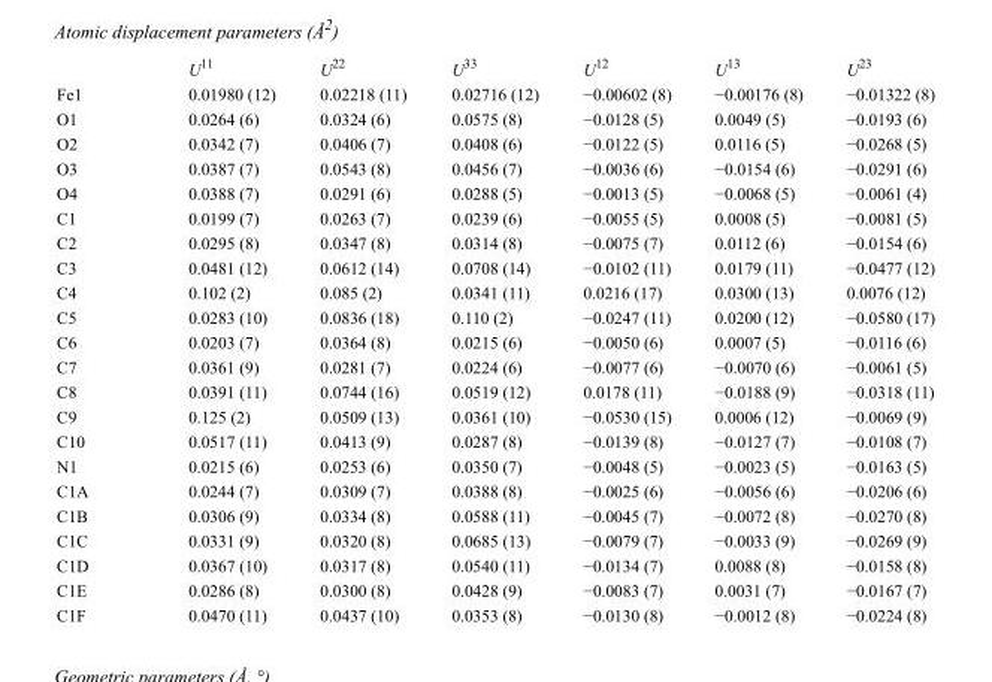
<table><thead><tr><td></td><td>U<sup>11</sup></td><td>U<sup>22</sup></td><td>U<sup>33</sup></td><td>U<sup>12</sup></td><td>U<sup>13</sup></td><td>U<sup>23</sup></td></tr></thead><tbody><tr><td>Fe1</td><td>0.01980 (12)</td><td>0.02218 (11)</td><td>0.02716 (12)</td><td>−0.00602 (8)</td><td>−0.00176 (8)</td><td>−0.01322 (8)</td></tr><tr><td>O1</td><td>0.0264 (6)</td><td>0.0324 (6)</td><td>0.0575 (8)</td><td>−0.0128 (5)</td><td>0.0049 (5)</td><td>−0.0193 (6)</td></tr><tr><td>O2</td><td>0.0342 (7)</td><td>0.0406 (7)</td><td>0.0408 (6)</td><td>−0.0122 (5)</td><td>0.0116 (5)</td><td>−0.0268 (5)</td></tr><tr><td>O3</td><td>0.0387 (7)</td><td>0.0543 (8)</td><td>0.0456 (7)</td><td>−0.0036 (6)</td><td>−0.0154 (6)</td><td>−0.0291 (6)</td></tr><tr><td>O4</td><td>0.0388 (7)</td><td>0.0291 (6)</td><td>0.0288 (5)</td><td>−0.0013 (5)</td><td>−0.0068 (5)</td><td>−0.0061 (4)</td></tr><tr><td>C1</td><td>0.0199 (7)</td><td>0.0263 (7)</td><td>0.0239 (6)</td><td>−0.0055 (5)</td><td>0.0008 (5)</td><td>−0.0081 (5)</td></tr><tr><td>C2</td><td>0.0295 (8)</td><td>0.0347 (8)</td><td>0.0314 (8)</td><td>−0.0075 (7)</td><td>0.0112 (6)</td><td>−0.0154 (6)</td></tr><tr><td>C3</td><td>0.0481 (12)</td><td>0.0612 (14)</td><td>0.0708 (14)</td><td>−0.0102 (11)</td><td>0.0179 (11)</td><td>−0.0477 (12)</td></tr><tr><td>C4</td><td>0.102 (2)</td><td>0.085 (2)</td><td>0.0341 (11)</td><td>0.0216 (17)</td><td>0.0300 (13)</td><td>0.0076 (12)</td></tr><tr><td>C5</td><td>0.0283 (10)</td><td>0.0836 (18)</td><td>0.110 (2)</td><td>−0.0247 (11)</td><td>0.0200 (12)</td><td>−0.0580 (17)</td></tr><tr><td>C6</td><td>0.0203 (7)</td><td>0.0364 (8)</td><td>0.0215 (6)</td><td>−0.0050 (6)</td><td>0.0007 (5)</td><td>−0.0116 (6)</td></tr><tr><td>C7</td><td>0.0361 (9)</td><td>0.0281 (7)</td><td>0.0224 (6)</td><td>−0.0077 (6)</td><td>−0.0070 (6)</td><td>−0.0061 (5)</td></tr><tr><td>C8</td><td>0.0391 (11)</td><td>0.0744 (16)</td><td>0.0519 (12)</td><td>0.0178 (11)</td><td>−0.0188 (9)</td><td>−0.0318 (11)</td></tr><tr><td>C9</td><td>0.125 (2)</td><td>0.0509 (13)</td><td>0.0361 (10)</td><td>−0.0530 (15)</td><td>0.0006 (12)</td><td>−0.0069 (9)</td></tr><tr><td>C10</td><td>0.0517 (11)</td><td>0.0413 (9)</td><td>0.0287 (8)</td><td>−0.0139 (8)</td><td>−0.0127 (7)</td><td>−0.0108 (7)</td></tr><tr><td>N1</td><td>0.0215 (6)</td><td>0.0253 (6)</td><td>0.0350 (7)</td><td>−0.0048 (5)</td><td>−0.0023 (5)</td><td>−0.0163 (5)</td></tr><tr><td>C1A</td><td>0.0244 (7)</td><td>0.0309 (7)</td><td>0.0388 (8)</td><td>−0.0025 (6)</td><td>−0.0056 (6)</td><td>−0.0206 (6)</td></tr><tr><td>C1B</td><td>0.0306 (9)</td><td>0.0334 (8)</td><td>0.0588 (11)</td><td>−0.0045 (7)</td><td>−0.0072 (8)</td><td>−0.0270 (8)</td></tr><tr><td>C1C</td><td>0.0331 (9)</td><td>0.0320 (8)</td><td>0.0685 (13)</td><td>−0.0079 (7)</td><td>−0.0033 (9)</td><td>−0.0269 (9)</td></tr><tr><td>C1D</td><td>0.0367 (10)</td><td>0.0317 (8)</td><td>0.0540 (11)</td><td>−0.0134 (7)</td><td>0.0088 (8)</td><td>−0.0158 (8)</td></tr><tr><td>C1E</td><td>0.0286 (8)</td><td>0.0300 (8)</td><td>0.0428 (9)</td><td>−0.0083 (7)</td><td>0.0031 (7)</td><td>−0.0167 (7)</td></tr><tr><td>C1F</td><td>0.0470 (11)</td><td>0.0437 (10)</td><td>0.0353 (8)</td><td>−0.0130 (8)</td><td>−0.0012 (8)</td><td>−0.0224 (8)</td></tr></tbody></table>